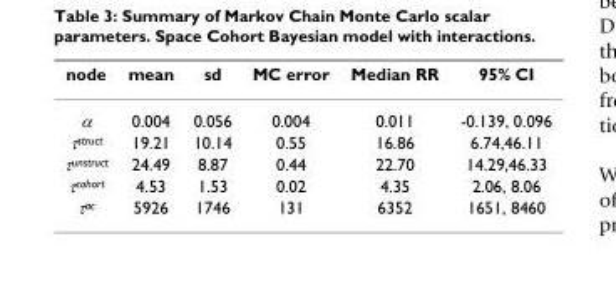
<table><thead><tr><td>node</td><td>mean</td><td>sd</td><td>MC error</td><td>Median RR</td><td>95% CI</td></tr></thead><tbody><tr><td>α</td><td>0.004</td><td>0.056</td><td>0.004</td><td>0.011</td><td>-0.139, 0.096</td></tr><tr><td>τ<sup>struct</sup></td><td>19.21</td><td>10.14</td><td>0.55</td><td>16.86</td><td>6.74,46.11</td></tr><tr><td>τ<sup>unstruct</sup></td><td>24.49</td><td>8.87</td><td>0.44</td><td>22.70</td><td>14.29,46.33</td></tr><tr><td>τ<sup>cohort</sup></td><td>4.53</td><td>1.53</td><td>0.02</td><td>4.35</td><td>2.06, 8.06</td></tr><tr><td>τ<sup>ac</sup></td><td>5926</td><td>1746</td><td>131</td><td>6352</td><td>1651, 8460</td></tr></tbody></table>